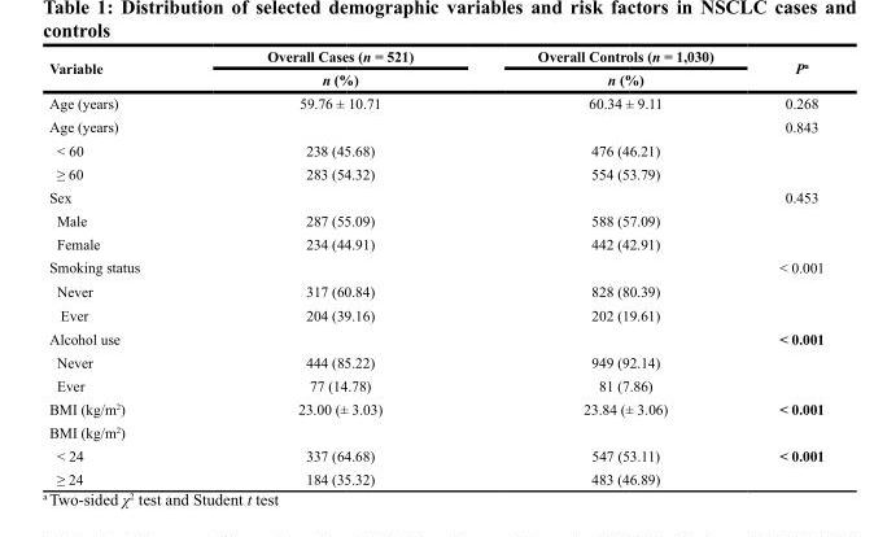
<table><thead><tr><td rowspan="2">Variable</td><td rowspan="2">Overall Cases (n = 521) n (%)</td><td rowspan="2">Overall Controls (n = 1,030) n (%)</td><td rowspan="2">P<sup>a</sup></td></tr><tr></tr></thead><tbody><tr><td>Age (years)</td><td>59.76 ± 10.71</td><td>60.34 ± 9.11</td><td>0.268</td></tr><tr><td>Age (years)</td><td></td><td></td><td>0.843</td></tr><tr><td>&lt; 60</td><td>238 (45.68)</td><td>476 (46.21)</td><td></td></tr><tr><td>≥ 60</td><td>283 (54.32)</td><td>554 (53.79)</td><td></td></tr><tr><td>Sex</td><td></td><td></td><td>0.453</td></tr><tr><td>Male</td><td>287 (55.09)</td><td>588 (57.09)</td><td></td></tr><tr><td>Female</td><td>234 (44.91)</td><td>442 (42.91)</td><td></td></tr><tr><td>Smoking status</td><td></td><td></td><td>&lt; 0.001</td></tr><tr><td>Never</td><td>317 (60.84)</td><td>828 (80.39)</td><td></td></tr><tr><td>Ever</td><td>204 (39.16)</td><td>202 (19.61)</td><td></td></tr><tr><td>Alcohol use</td><td></td><td></td><td>&lt; 0.001</td></tr><tr><td>Never</td><td>444 (85.22)</td><td>949 (92.14)</td><td></td></tr><tr><td>Ever</td><td>77 (14.78)</td><td>81 (7.86)</td><td></td></tr><tr><td>BMI (kg/m<sup>2</sup>)</td><td>23.00 (± 3.03)</td><td>23.84 (± 3.06)</td><td>&lt; 0.001</td></tr><tr><td colspan="4">BMI (kg/m<sup>2</sup>)</td></tr><tr><td>&lt; 24</td><td>337 (64.68)</td><td>547 (53.11)</td><td>&lt; 0.001</td></tr><tr><td>≥ 24</td><td>184 (35.32)</td><td>483 (46.89)</td><td></td></tr></tbody></table>